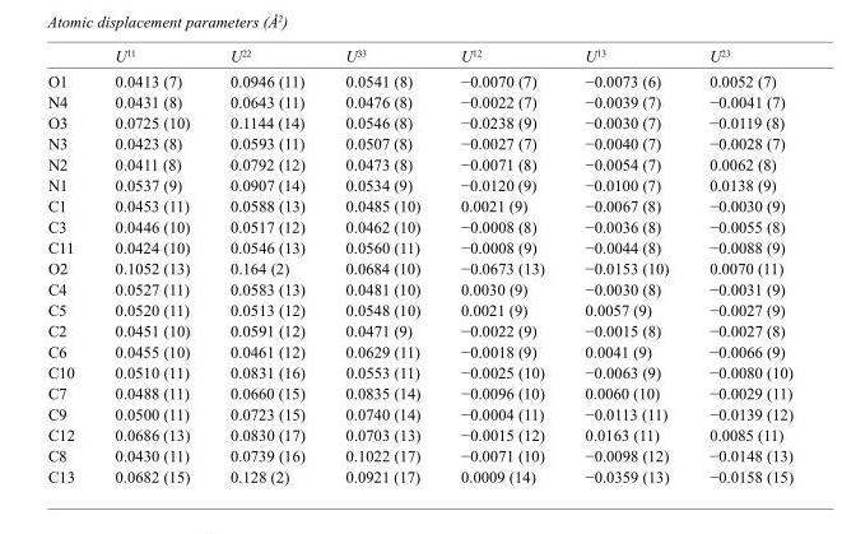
<table><thead><tr><td></td><td>U<sup>11</sup></td><td>U<sup>22</sup></td><td>U<sup>33</sup></td><td>U<sup>12</sup></td><td>U<sup>13</sup></td><td>U<sup>23</sup></td></tr></thead><tbody><tr><td>O1</td><td>0.0413 (7)</td><td>0.0946 (11)</td><td>0.0541 (8)</td><td>−0.0070 (7)</td><td>−0.0073 (6)</td><td>0.0052 (7)</td></tr><tr><td>N4</td><td>0.0431 (8)</td><td>0.0643 (11)</td><td>0.0476 (8)</td><td>−0.0022 (7)</td><td>−0.0039 (7)</td><td>−0.0041 (7)</td></tr><tr><td>O3</td><td>0.0725 (10)</td><td>0.1144 (14)</td><td>0.0546 (8)</td><td>−0.0238 (9)</td><td>−0.0030 (7)</td><td>−0.0119 (8)</td></tr><tr><td>N3</td><td>0.0423 (8)</td><td>0.0593 (11)</td><td>0.0507 (8)</td><td>−0.0027 (7)</td><td>−0.0040 (7)</td><td>−0.0028 (7)</td></tr><tr><td>N2</td><td>0.0411 (8)</td><td>0.0792 (12)</td><td>0.0473 (8)</td><td>−0.0071 (8)</td><td>−0.0054 (7)</td><td>0.0062 (8)</td></tr><tr><td>N1</td><td>0.0537 (9)</td><td>0.0907 (14)</td><td>0.0534 (9)</td><td>−0.0120 (9)</td><td>−0.0100 (7)</td><td>0.0138 (9)</td></tr><tr><td>C1</td><td>0.0453 (11)</td><td>0.0588 (13)</td><td>0.0485 (10)</td><td>0.0021 (9)</td><td>−0.0067 (8)</td><td>−0.0030 (9)</td></tr><tr><td>C3</td><td>0.0446 (10)</td><td>0.0517 (12)</td><td>0.0462 (10)</td><td>−0.0008 (8)</td><td>−0.0036 (8)</td><td>−0.0055 (8)</td></tr><tr><td>C11</td><td>0.0424 (10)</td><td>0.0546 (13)</td><td>0.0560 (11)</td><td>−0.0008 (9)</td><td>−0.0044 (8)</td><td>−0.0088 (9)</td></tr><tr><td>O2</td><td>0.1052 (13)</td><td>0.164 (2)</td><td>0.0684 (10)</td><td>−0.0673 (13)</td><td>−0.0153 (10)</td><td>0.0070 (11)</td></tr><tr><td>C4</td><td>0.0527 (11)</td><td>0.0583 (13)</td><td>0.0481 (10)</td><td>0.0030 (9)</td><td>−0.0030 (8)</td><td>−0.0031 (9)</td></tr><tr><td>C5</td><td>0.0520 (11)</td><td>0.0513 (12)</td><td>0.0548 (10)</td><td>0.0021 (9)</td><td>0.0057 (9)</td><td>−0.0027 (9)</td></tr><tr><td>C2</td><td>0.0451 (10)</td><td>0.0591 (12)</td><td>0.0471 (9)</td><td>−0.0022 (9)</td><td>−0.0015 (8)</td><td>−0.0027 (8)</td></tr><tr><td>C6</td><td>0.0455 (10)</td><td>0.0461 (12)</td><td>0.0629 (11)</td><td>−0.0018 (9)</td><td>0.0041 (9)</td><td>−0.0066 (9)</td></tr><tr><td>C10</td><td>0.0510 (11)</td><td>0.0831 (16)</td><td>0.0553 (11)</td><td>−0.0025 (10)</td><td>−0.0063 (9)</td><td>−0.0080 (10)</td></tr><tr><td>C7</td><td>0.0488 (11)</td><td>0.0660 (15)</td><td>0.0835 (14)</td><td>−0.0096 (10)</td><td>0.0060 (10)</td><td>−0.0029 (11)</td></tr><tr><td>C9</td><td>0.0500 (11)</td><td>0.0723 (15)</td><td>0.0740 (14)</td><td>−0.0004 (11)</td><td>−0.0113 (11)</td><td>−0.0139 (12)</td></tr><tr><td>C12</td><td>0.0686 (13)</td><td>0.0830 (17)</td><td>0.0703 (13)</td><td>−0.0015 (12)</td><td>0.0163 (11)</td><td>0.0085 (11)</td></tr><tr><td>C8</td><td>0.0430 (11)</td><td>0.0739 (16)</td><td>0.1022 (17)</td><td>−0.0071 (10)</td><td>−0.0098 (12)</td><td>−0.0148 (13)</td></tr><tr><td>C13</td><td>0.0682 (15)</td><td>0.128 (2)</td><td>0.0921 (17)</td><td>0.0009 (14)</td><td>−0.0359 (13)</td><td>−0.0158 (15)</td></tr></tbody></table>